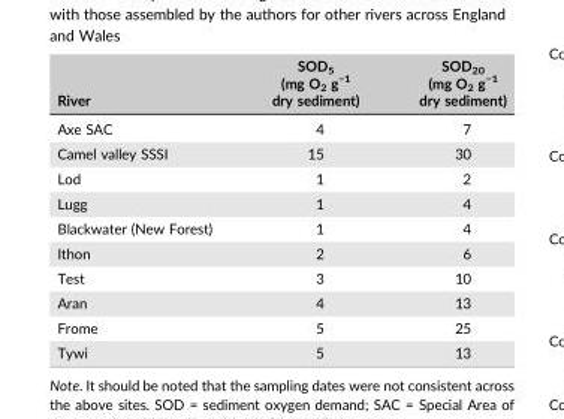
<table><thead><tr><td>River</td><td>SOD<sub>5</sub> (mg O<sub>2</sub> g<sup>−1</sup> dry sediment)</td><td>SOD<sub>20</sub> (mg O<sub>2</sub> g<sup>−1</sup> dry sediment)</td></tr></thead><tbody><tr><td>Axe SAC</td><td>4</td><td>7</td></tr><tr><td>Camel valley SSSI</td><td>15</td><td>30</td></tr><tr><td>Lod</td><td>1</td><td>2</td></tr><tr><td>Lugg</td><td>1</td><td>4</td></tr><tr><td>Blackwater (New Forest)</td><td>1</td><td>4</td></tr><tr><td>Ithon</td><td>2</td><td>6</td></tr><tr><td>Test</td><td>3</td><td>10</td></tr><tr><td>Aran</td><td>4</td><td>13</td></tr><tr><td>Frome</td><td>5</td><td>25</td></tr><tr><td>Tywi</td><td>5</td><td>13</td></tr></tbody></table>